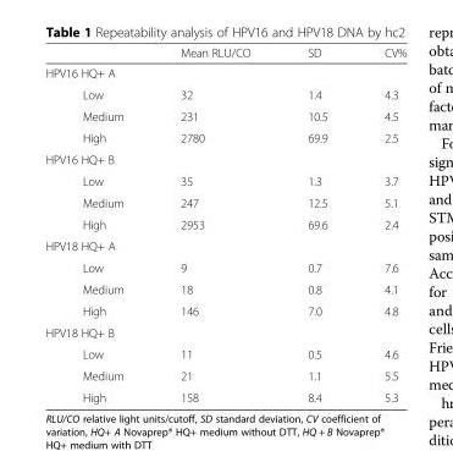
<table><thead><tr><td></td><td>Mean RLU/CO</td><td>SD</td><td>CV%</td></tr></thead><tbody><tr><td colspan="4">HPV16 HQ+ A</td></tr><tr><td>Low</td><td>32</td><td>1.4</td><td>4.3</td></tr><tr><td>Medium</td><td>231</td><td>10.5</td><td>4.5</td></tr><tr><td>High</td><td>2780</td><td>69.9</td><td>2.5</td></tr><tr><td colspan="4">HPV16 HQ+ B</td></tr><tr><td>Low</td><td>35</td><td>1.3</td><td>3.7</td></tr><tr><td>Medium</td><td>247</td><td>12.5</td><td>5.1</td></tr><tr><td>High</td><td>2953</td><td>69.6</td><td>2.4</td></tr><tr><td colspan="4">HPV18 HQ+ A</td></tr><tr><td>Low</td><td>9</td><td>0.7</td><td>7.6</td></tr><tr><td>Medium</td><td>18</td><td>0.8</td><td>4.1</td></tr><tr><td>High</td><td>146</td><td>7.0</td><td>4.8</td></tr><tr><td colspan="4">HPV18 HQ+ B</td></tr><tr><td>Low</td><td>11</td><td>0.5</td><td>4.6</td></tr><tr><td>Medium</td><td>21</td><td>1.1</td><td>5.5</td></tr><tr><td>High</td><td>158</td><td>8.4</td><td>5.3</td></tr></tbody></table>